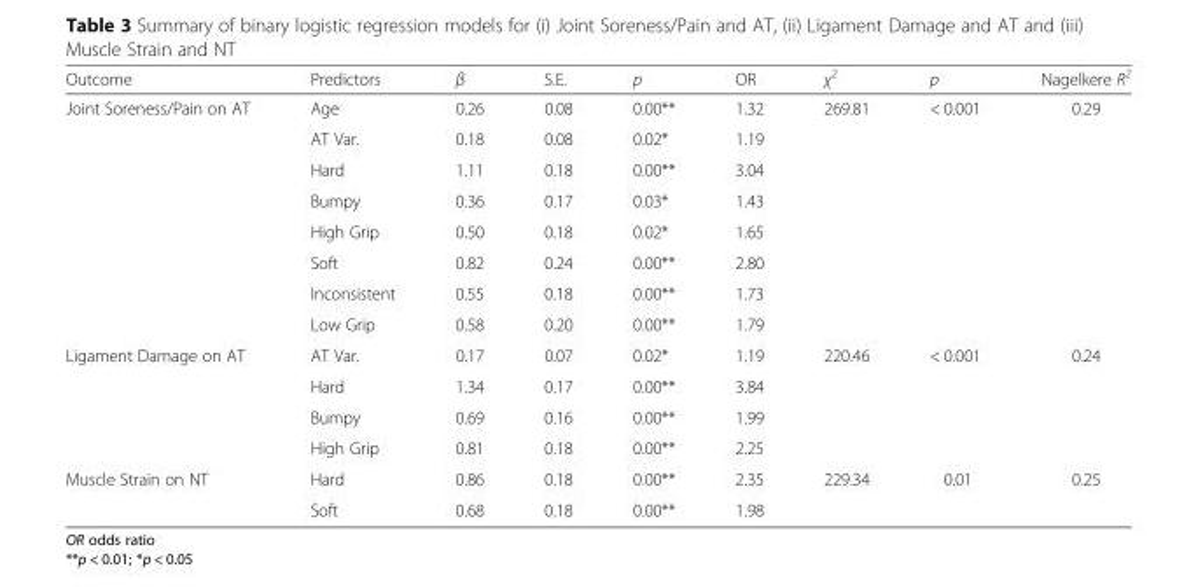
<table><thead><tr><td>Outcome</td><td>Predictors</td><td>β</td><td>S.E.</td><td>p</td><td>OR</td><td>χ<sup>2</sup></td><td>p</td><td>Nagelkere R<sup>2</sup></td></tr></thead><tbody><tr><td rowspan="8">Joint Soreness/Pain on AT</td><td>Age</td><td>0.26</td><td>0.08</td><td>0.00**</td><td>1.32</td><td rowspan="8">269.81</td><td rowspan="8">&lt; 0.001</td><td rowspan="8">0.29</td></tr><tr><td>AT Var.</td><td>0.18</td><td>0.08</td><td>0.02*</td><td>1.19</td></tr><tr><td>Hard</td><td>1.11</td><td>0.18</td><td>0.00**</td><td>3.04</td></tr><tr><td>Bumpy</td><td>0.36</td><td>0.17</td><td>0.03*</td><td>1.43</td></tr><tr><td>High Grip</td><td>0.50</td><td>0.18</td><td>0.02*</td><td>1.65</td></tr><tr><td>Soft</td><td>0.82</td><td>0.24</td><td>0.00**</td><td>2.80</td></tr><tr><td>Inconsistent</td><td>0.55</td><td>0.18</td><td>0.00**</td><td>1.73</td></tr><tr><td>Low Grip</td><td>0.58</td><td>0.20</td><td>0.00**</td><td>1.79</td></tr><tr><td rowspan="4">Ligament Damage on AT</td><td>AT Var.</td><td>0.17</td><td>0.07</td><td>0.02*</td><td>1.19</td><td rowspan="4">220.46</td><td rowspan="4">&lt; 0.001</td><td rowspan="4">0.24</td></tr><tr><td>Hard</td><td>1.34</td><td>0.17</td><td>0.00**</td><td>3.84</td></tr><tr><td>Bumpy</td><td>0.69</td><td>0.16</td><td>0.00**</td><td>1.99</td></tr><tr><td>High Grip</td><td>0.81</td><td>0.18</td><td>0.00**</td><td>2.25</td></tr><tr><td rowspan="2">Muscle Strain on NT</td><td>Hard</td><td>0.86</td><td>0.18</td><td>0.00**</td><td>2.35</td><td rowspan="2">229.34</td><td rowspan="2">0.01</td><td rowspan="2">0.25</td></tr><tr><td>Soft</td><td>0.68</td><td>0.18</td><td>0.00**</td><td>1.98</td></tr></tbody></table>